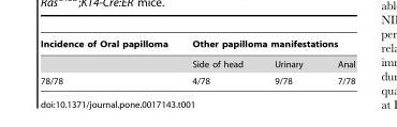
<table><thead><tr><td rowspan="2">Incidence of Oral papilloma</td><td colspan="3">Other papilloma manifestations</td></tr><tr><td>Side of head</td><td>Urinary</td><td>Anal</td></tr></thead><tbody><tr><td>78/78</td><td>4/78</td><td>9/78</td><td>7/78</td></tr></tbody></table>